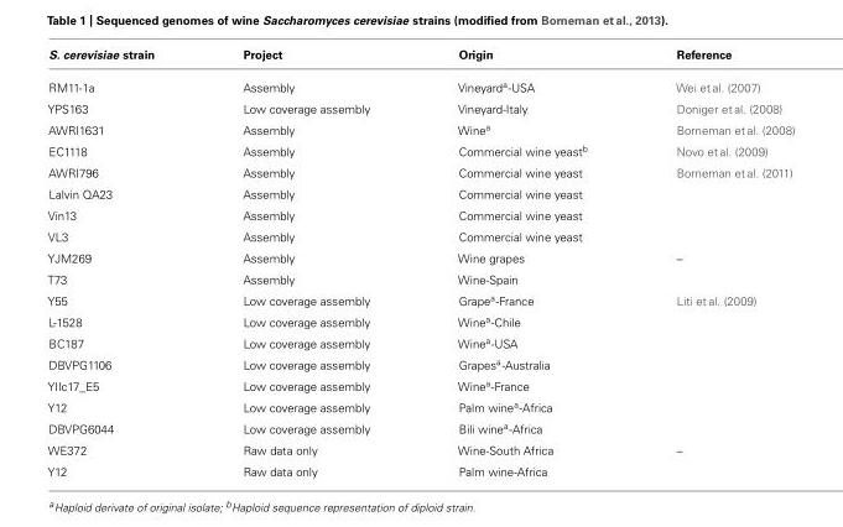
<table><thead><tr><td>S. cerevisiae strain</td><td>Project</td><td>Origin</td><td>Reference</td></tr></thead><tbody><tr><td>RM11-1a</td><td>Assembly</td><td>Vineyard<sup>a</sup>-USA</td><td>Wei et al. (2007)</td></tr><tr><td>YPS163</td><td>Low coverage assembly</td><td>Vineyard-Italy</td><td>Doniger et al. (2008)</td></tr><tr><td>AWRI1631</td><td>Assembly</td><td>Wine<sup>a</sup></td><td>Borneman et al. (2008)</td></tr><tr><td>EC1118</td><td>Assembly</td><td>Commercial wine yeast<sup>b</sup></td><td>Novo et al. (2009)</td></tr><tr><td>AWRI796</td><td>Assembly</td><td>Commercial wine yeast</td><td>Borneman et al. (2011)</td></tr><tr><td>Lalvin QA23</td><td>Assembly</td><td>Commercial wine yeast</td><td></td></tr><tr><td>Vin13</td><td>Assembly</td><td>Commercial wine yeast</td><td></td></tr><tr><td>VL3</td><td>Assembly</td><td>Commercial wine yeast</td><td></td></tr><tr><td>YJM269</td><td>Assembly</td><td>Wine grapes</td><td>–</td></tr><tr><td>T73</td><td>Assembly</td><td>Wine-Spain</td><td></td></tr><tr><td>Y55</td><td>Low coverage assembly</td><td>Grape<sup>a</sup>-France</td><td>Liti et al. (2009)</td></tr><tr><td>L-1528</td><td>Low coverage assembly</td><td>Wine<sup>a</sup>-Chile</td><td></td></tr><tr><td>BC187</td><td>Low coverage assembly</td><td>Wine<sup>a</sup>-USA</td><td></td></tr><tr><td>DBVPG1106</td><td>Low coverage assembly</td><td>Grapes<sup>a</sup>-Australia</td><td></td></tr><tr><td>YIIc17_E5</td><td>Low coverage assembly</td><td>Wine<sup>a</sup>-France</td><td></td></tr><tr><td>Y12</td><td>Low coverage assembly</td><td>Palm wine<sup>a</sup>-Africa</td><td></td></tr><tr><td>DBVPG6044</td><td>Low coverage assembly</td><td>Bili wine<sup>a</sup>-Africa</td><td></td></tr><tr><td>WE372</td><td>Raw data only</td><td>Wine-South Africa</td><td>–</td></tr><tr><td>Y12</td><td>Raw data only</td><td>Palm wine-Africa</td><td></td></tr></tbody></table>